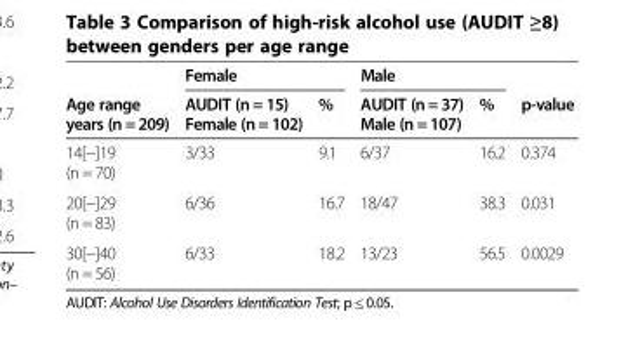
<table><thead><tr><td rowspan="2">Age range years (n = 209)</td><td colspan="2">Female</td><td colspan="2">Male</td><td rowspan="2">p-value</td></tr><tr><td>AUDIT (n = 15) Female (n = 102)</td><td>%</td><td>AUDIT (n = 37) Male (n = 107)</td><td>%</td></tr></thead><tbody><tr><td>14[−]19 (n = 70)</td><td>3/33</td><td>9.1</td><td>6/37</td><td>16.2</td><td>0.374</td></tr><tr><td>20[−]29 (n = 83)</td><td>6/36</td><td>16.7</td><td>18/47</td><td>38.3</td><td>0.031</td></tr><tr><td>30[−]40 (n = 56)</td><td>6/33</td><td>18.2</td><td>13/23</td><td>56.5</td><td>0.0029</td></tr></tbody></table>